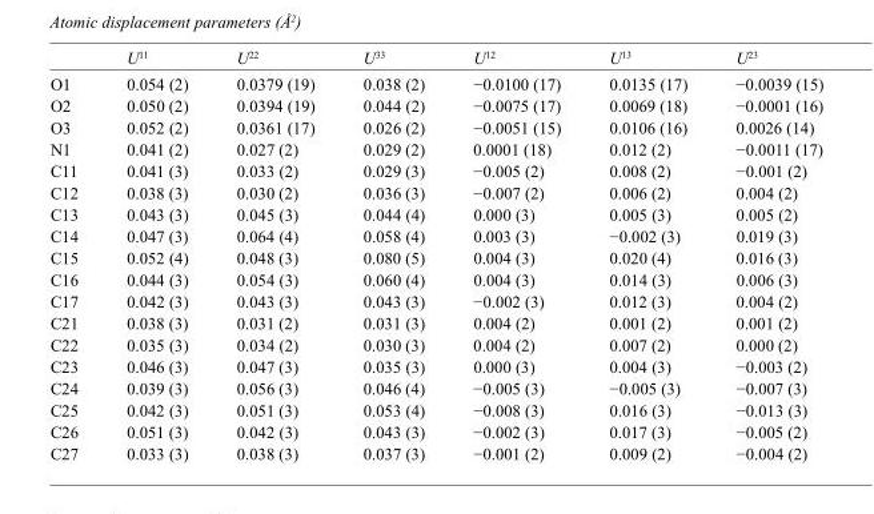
<table><thead><tr><td></td><td>U<sup>11</sup></td><td>U<sup>22</sup></td><td>U<sup>33</sup></td><td>U<sup>12</sup></td><td>U<sup>13</sup></td><td>U<sup>23</sup></td></tr></thead><tbody><tr><td>O1</td><td>0.054 (2)</td><td>0.0379 (19)</td><td>0.038 (2)</td><td>−0.0100 (17)</td><td>0.0135 (17)</td><td>−0.0039 (15)</td></tr><tr><td>O2</td><td>0.050 (2)</td><td>0.0394 (19)</td><td>0.044 (2)</td><td>−0.0075 (17)</td><td>0.0069 (18)</td><td>−0.0001 (16)</td></tr><tr><td>O3</td><td>0.052 (2)</td><td>0.0361 (17)</td><td>0.026 (2)</td><td>−0.0051 (15)</td><td>0.0106 (16)</td><td>0.0026 (14)</td></tr><tr><td>N1</td><td>0.041 (2)</td><td>0.027 (2)</td><td>0.029 (2)</td><td>0.0001 (18)</td><td>0.012 (2)</td><td>−0.0011 (17)</td></tr><tr><td>C11</td><td>0.041 (3)</td><td>0.033 (2)</td><td>0.029 (3)</td><td>−0.005 (2)</td><td>0.008 (2)</td><td>−0.001 (2)</td></tr><tr><td>C12</td><td>0.038 (3)</td><td>0.030 (2)</td><td>0.036 (3)</td><td>−0.007 (2)</td><td>0.006 (2)</td><td>0.004 (2)</td></tr><tr><td>C13</td><td>0.043 (3)</td><td>0.045 (3)</td><td>0.044 (4)</td><td>0.000 (3)</td><td>0.005 (3)</td><td>0.005 (2)</td></tr><tr><td>C14</td><td>0.047 (3)</td><td>0.064 (4)</td><td>0.058 (4)</td><td>0.003 (3)</td><td>−0.002 (3)</td><td>0.019 (3)</td></tr><tr><td>C15</td><td>0.052 (4)</td><td>0.048 (3)</td><td>0.080 (5)</td><td>0.004 (3)</td><td>0.020 (4)</td><td>0.016 (3)</td></tr><tr><td>C16</td><td>0.044 (3)</td><td>0.054 (3)</td><td>0.060 (4)</td><td>0.004 (3)</td><td>0.014 (3)</td><td>0.006 (3)</td></tr><tr><td>C17</td><td>0.042 (3)</td><td>0.043 (3)</td><td>0.043 (3)</td><td>−0.002 (3)</td><td>0.012 (3)</td><td>0.004 (2)</td></tr><tr><td>C21</td><td>0.038 (3)</td><td>0.031 (2)</td><td>0.031 (3)</td><td>0.004 (2)</td><td>0.001 (2)</td><td>0.001 (2)</td></tr><tr><td>C22</td><td>0.035 (3)</td><td>0.034 (2)</td><td>0.030 (3)</td><td>0.004 (2)</td><td>0.007 (2)</td><td>0.000 (2)</td></tr><tr><td>C23</td><td>0.046 (3)</td><td>0.047 (3)</td><td>0.035 (3)</td><td>0.000 (3)</td><td>0.004 (3)</td><td>−0.003 (2)</td></tr><tr><td>C24</td><td>0.039 (3)</td><td>0.056 (3)</td><td>0.046 (4)</td><td>−0.005 (3)</td><td>−0.005 (3)</td><td>−0.007 (3)</td></tr><tr><td>C25</td><td>0.042 (3)</td><td>0.051 (3)</td><td>0.053 (4)</td><td>−0.008 (3)</td><td>0.016 (3)</td><td>−0.013 (3)</td></tr><tr><td>C26</td><td>0.051 (3)</td><td>0.042 (3)</td><td>0.043 (3)</td><td>−0.002 (3)</td><td>0.017 (3)</td><td>−0.005 (2)</td></tr><tr><td>C27</td><td>0.033 (3)</td><td>0.038 (3)</td><td>0.037 (3)</td><td>−0.001 (2)</td><td>0.009 (2)</td><td>−0.004 (2)</td></tr></tbody></table>